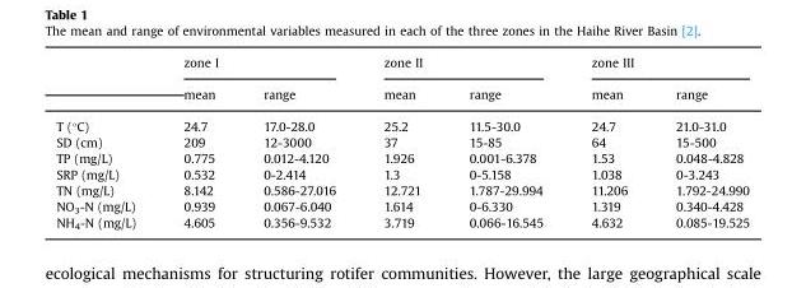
<table><thead><tr><td rowspan="2"></td><td colspan="2">zone I</td><td colspan="2">zone II</td><td colspan="2">zone III</td></tr><tr><td>mean</td><td>range</td><td>mean</td><td>range</td><td>mean</td><td>range</td></tr></thead><tbody><tr><td>T (°C)</td><td>24.7</td><td>17.0-28.0</td><td>25.2</td><td>11.5-30.0</td><td>24.7</td><td>21.0-31.0</td></tr><tr><td>SD (cm)</td><td>209</td><td>12-3000</td><td>37</td><td>15-85</td><td>64</td><td>15-500</td></tr><tr><td>TP (mg/L)</td><td>0.775</td><td>0.012-4.120</td><td>1.926</td><td>0.001-6.378</td><td>1.53</td><td>0.048-4.828</td></tr><tr><td>SRP (mg/L)</td><td>0.532</td><td>0-2.414</td><td>1.3</td><td>0-5.158</td><td>1.038</td><td>0-3.243</td></tr><tr><td>TN (mg/L)</td><td>8.142</td><td>0.586-27.016</td><td>12.721</td><td>1.787-29.994</td><td>11.206</td><td>1.792-24.990</td></tr><tr><td>NO<sub>3</sub>-N (mg/L)</td><td>0.939</td><td>0.067-6.040</td><td>1.614</td><td>0-6.330</td><td>1.319</td><td>0.340-4.428</td></tr><tr><td>NH<sub>4</sub>-N (mg/L)</td><td>4.605</td><td>0.356-9.532</td><td>3.719</td><td>0.066-16.545</td><td>4.632</td><td>0.085-19.525</td></tr></tbody></table>